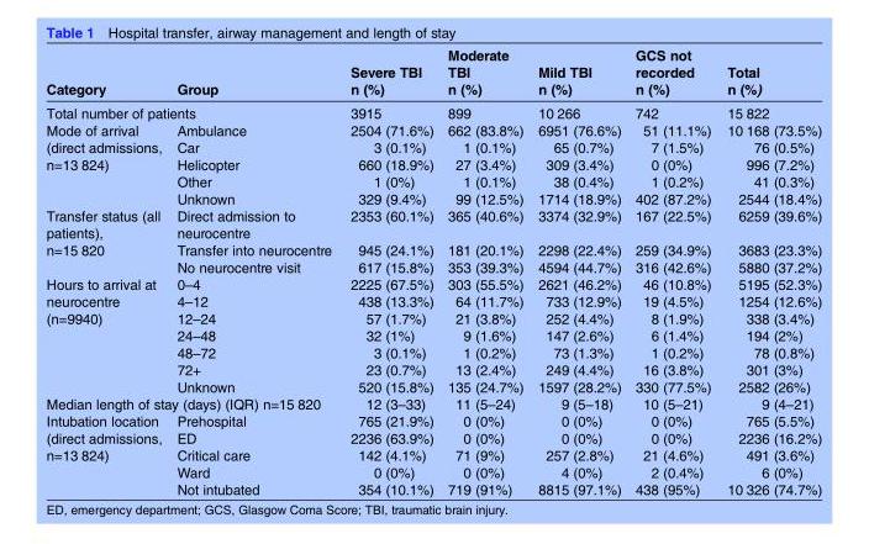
<table><thead><tr><td>Category</td><td>Group</td><td>Severe TBI n (%)</td><td>Moderate TBI n (%)</td><td>Mild TBI n (%)</td><td>GCS not recorded n (%)</td><td>Total n (%)</td></tr></thead><tbody><tr><td colspan="2">Total number of patients</td><td>3915</td><td>899</td><td>10 266</td><td>742</td><td>15 822</td></tr><tr><td rowspan="5">Mode of arrival (direct admissions, n=13 824)</td><td>Ambulance</td><td>2504 (71.6%)</td><td>662 (83.8%)</td><td>6951 (76.6%)</td><td>51 (11.1%)</td><td>10 168 (73.5%)</td></tr><tr><td>Car</td><td>3 (0.1%)</td><td>1 (0.1%)</td><td>65 (0.7%)</td><td>7 (1.5%)</td><td>76 (0.5%)</td></tr><tr><td>Helicopter</td><td>660 (18.9%)</td><td>27 (3.4%)</td><td>309 (3.4%)</td><td>0 (0%)</td><td>996 (7.2%)</td></tr><tr><td>Other</td><td>1 (0%)</td><td>1 (0.1%)</td><td>38 (0.4%)</td><td>1 (0.2%)</td><td>41 (0.3%)</td></tr><tr><td>Unknown</td><td>329 (9.4%)</td><td>99 (12.5%)</td><td>1714 (18.9%)</td><td>402 (87.2%)</td><td>2544 (18.4%)</td></tr><tr><td rowspan="3">Transfer status (all patients), n=15 820</td><td>Direct admission to neurocentre</td><td>2353 (60.1%)</td><td>365 (40.6%)</td><td>3374 (32.9%)</td><td>167 (22.5%)</td><td>6259 (39.6%)</td></tr><tr><td>Transfer into neurocentre</td><td>945 (24.1%)</td><td>181 (20.1%)</td><td>2298 (22.4%)</td><td>259 (34.9%)</td><td>3683 (23.3%)</td></tr><tr><td>No neurocentre visit</td><td>617 (15.8%)</td><td>353 (39.3%)</td><td>4594 (44.7%)</td><td>316 (42.6%)</td><td>5880 (37.2%)</td></tr><tr><td rowspan="7">Hours to arrival at neurocentre (n=9940)</td><td>0–4</td><td>2225 (67.5%)</td><td>303 (55.5%)</td><td>2621 (46.2%)</td><td>46 (10.8%)</td><td>5195 (52.3%)</td></tr><tr><td>4–12</td><td>438 (13.3%)</td><td>64 (11.7%)</td><td>733 (12.9%)</td><td>19 (4.5%)</td><td>1254 (12.6%)</td></tr><tr><td>12–24</td><td>57 (1.7%)</td><td>21 (3.8%)</td><td>252 (4.4%)</td><td>8 (1.9%)</td><td>338 (3.4%)</td></tr><tr><td>24–48</td><td>32 (1%)</td><td>9 (1.6%)</td><td>147 (2.6%)</td><td>6 (1.4%)</td><td>194 (2%)</td></tr><tr><td>48–72</td><td>3 (0.1%)</td><td>1 (0.2%)</td><td>73 (1.3%)</td><td>1 (0.2%)</td><td>78 (0.8%)</td></tr><tr><td>72+</td><td>23 (0.7%)</td><td>13 (2.4%)</td><td>249 (4.4%)</td><td>16 (3.8%)</td><td>301 (3%)</td></tr><tr><td>Unknown</td><td>520 (15.8%)</td><td>135 (24.7%)</td><td>1597 (28.2%)</td><td>330 (77.5%)</td><td>2582 (26%)</td></tr><tr><td colspan="2">Median length of stay (days) (IQR) n=15 820</td><td>12 (3–33)</td><td>11 (5–24)</td><td>9 (5–18)</td><td>10 (5–21)</td><td>9 (4–21)</td></tr><tr><td rowspan="5">Intubation location (direct admissions, n=13 824)</td><td>Prehospital</td><td>765 (21.9%)</td><td>0 (0%)</td><td>0 (0%)</td><td>0 (0%)</td><td>765 (5.5%)</td></tr><tr><td>ED</td><td>2236 (63.9%)</td><td>0 (0%)</td><td>0 (0%)</td><td>0 (0%)</td><td>2236 (16.2%)</td></tr><tr><td>Critical care</td><td>142 (4.1%)</td><td>71 (9%)</td><td>257 (2.8%)</td><td>21 (4.6%)</td><td>491 (3.6%)</td></tr><tr><td>Ward</td><td>0 (0%)</td><td>0 (0%)</td><td>4 (0%)</td><td>2 (0.4%)</td><td>6 (0%)</td></tr><tr><td>Not intubated</td><td>354 (10.1%)</td><td>719 (91%)</td><td>8815 (97.1%)</td><td>438 (95%)</td><td>10 326 (74.7%)</td></tr></tbody></table>